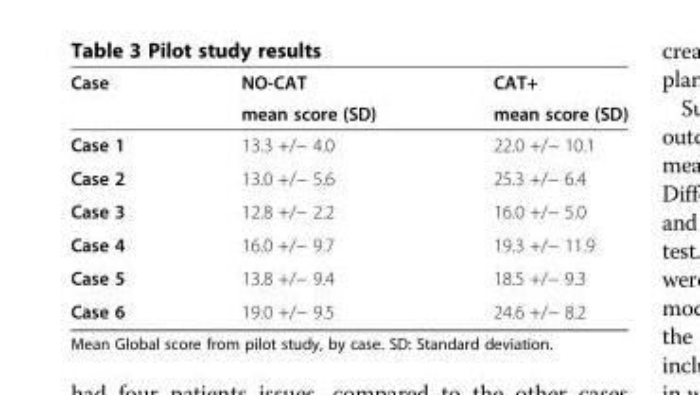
<table><thead><tr><td rowspan="2">Case</td><td rowspan="2">NO-CAT mean score (SD)</td><td rowspan="2">CAT+ mean score (SD)</td></tr><tr></tr></thead><tbody><tr><td>Case 1</td><td>13.3 +/− 4.0</td><td>22.0 +/− 10.1</td></tr><tr><td>Case 2</td><td>13.0 +/− 5.6</td><td>25.3 +/− 6.4</td></tr><tr><td>Case 3</td><td>12.8 +/− 2.2</td><td>16.0 +/− 5.0</td></tr><tr><td>Case 4</td><td>16.0 +/− 9.7</td><td>19.3 +/− 11.9</td></tr><tr><td>Case 5</td><td>13.8 +/− 9.4</td><td>18.5 +/− 9.3</td></tr><tr><td>Case 6</td><td>19.0 +/− 9.5</td><td>24.6 +/− 8.2</td></tr></tbody></table>